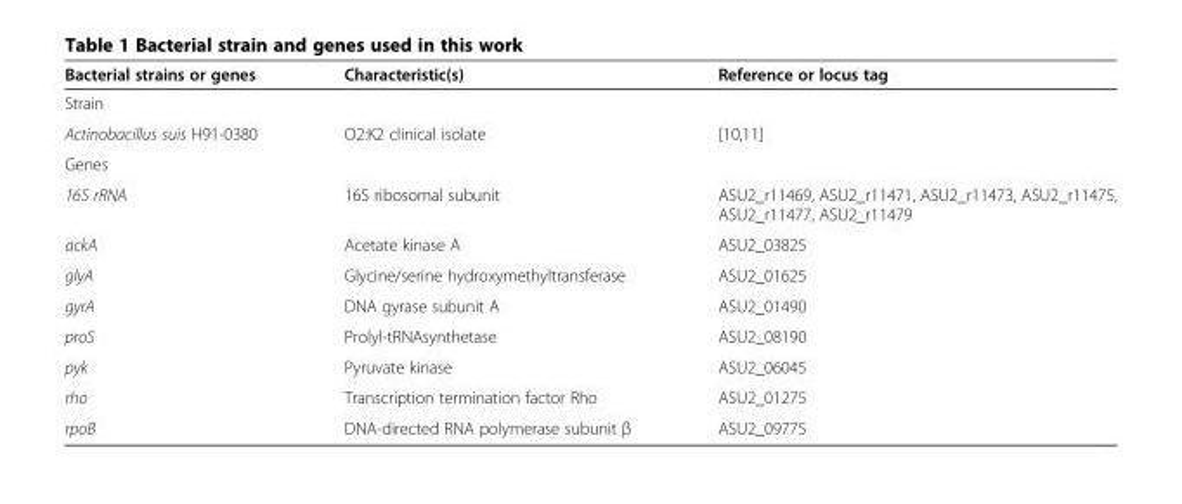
<table><thead><tr><td>Bacterial strains or genes</td><td>Characteristic(s)</td><td>Reference or locus tag</td></tr></thead><tbody><tr><td colspan="3">Strain</td></tr><tr><td>Actinobacillus suis H91-0380</td><td>O2:K2 clinical isolate</td><td>[10,11]</td></tr><tr><td colspan="3">Genes</td></tr><tr><td>16S rRNA</td><td>16S ribosomal subunit</td><td>ASU2_r11469, ASU2_r11471, ASU2_r11473, ASU2_r11475, ASU2_r11477, ASU2_r11479</td></tr><tr><td>ackA</td><td>Acetate kinase A</td><td>ASU2_03825</td></tr><tr><td>glyA</td><td>Glycine/serine hydroxymethyltransferase</td><td>ASU2_01625</td></tr><tr><td>gyrA</td><td>DNA gyrase subunit A</td><td>ASU2_01490</td></tr><tr><td>proS</td><td>Prolyl-tRNAsynthetase</td><td>ASU2_08190</td></tr><tr><td>pyk</td><td>Pyruvate kinase</td><td>ASU2_06045</td></tr><tr><td>rho</td><td>Transcription termination factor Rho</td><td>ASU2_01275</td></tr><tr><td>rpoB</td><td>DNA-directed RNA polymerase subunit β</td><td>ASU2_09775</td></tr></tbody></table>